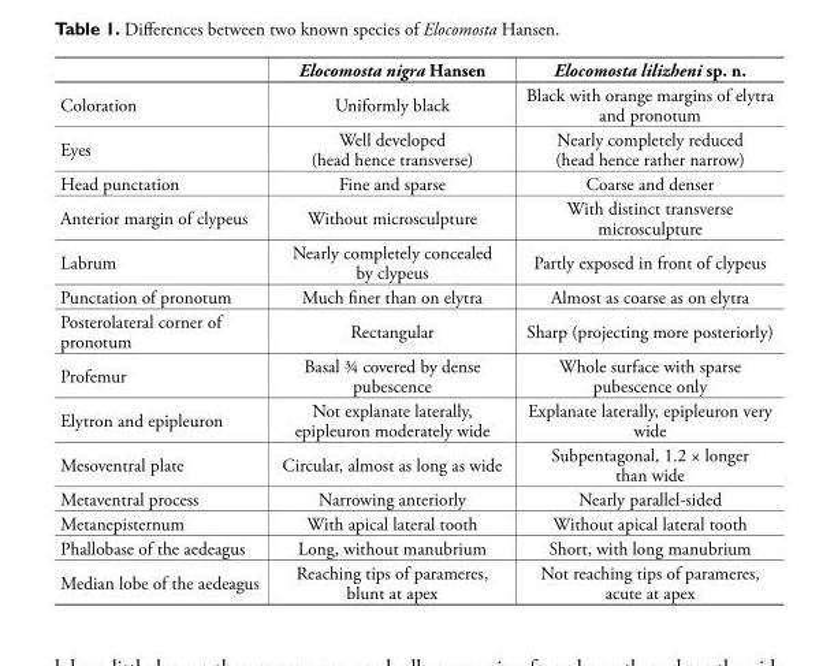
<table><thead><tr><td></td><td>Elocomosta nigra Hansen</td><td>Elocomosta lilizheni sp. n.</td></tr></thead><tbody><tr><td>Coloration</td><td>Uniformly black</td><td>Black with orange margins of elytra and pronotum</td></tr><tr><td>Eyes</td><td>Well developed (head hence transverse)</td><td>Nearly completely reduced (head hence rather narrow)</td></tr><tr><td>Head punctation</td><td>Fine and sparse</td><td>Coarse and denser</td></tr><tr><td>Anterior margin of clypeus</td><td>Without microsculpture</td><td>With distinct transverse microsculpture</td></tr><tr><td>Labrum</td><td>Nearly completely concealed by clypeus</td><td>Partly exposed in front of clypeus</td></tr><tr><td>Punctation of pronotum</td><td>Much finer than on elytra</td><td>Almost as coarse as on elytra</td></tr><tr><td>Posterolateral corner of pronotum</td><td>Rectangular</td><td>Sharp (projecting more posteriorly)</td></tr><tr><td>Profemur</td><td>Basal ¾ covered by dense pubescence</td><td>Whole surface with sparse pubescence only</td></tr><tr><td>Elytron and epipleuron</td><td>Not explanate laterally, epipleuron moderately wide</td><td>Explanate laterally, epipleuron very wide</td></tr><tr><td>Mesoventral plate</td><td>Circular, almost as long as wide</td><td>Subpentagonal, 1.2 × longer than wide</td></tr><tr><td>Metaventral process</td><td>Narrowing anteriorly</td><td>Nearly parallel-sided</td></tr><tr><td>Metanepisternum</td><td>With apical lateral tooth</td><td>Without apical lateral tooth</td></tr><tr><td>Phallobase of the aedeagus</td><td>Long, without manubrium</td><td>Short, with long manubrium</td></tr><tr><td>Median lobe of the aedeagus</td><td>Reaching tips of parameres, blunt at apex</td><td>Not reaching tips of parameres, acute at apex</td></tr></tbody></table>